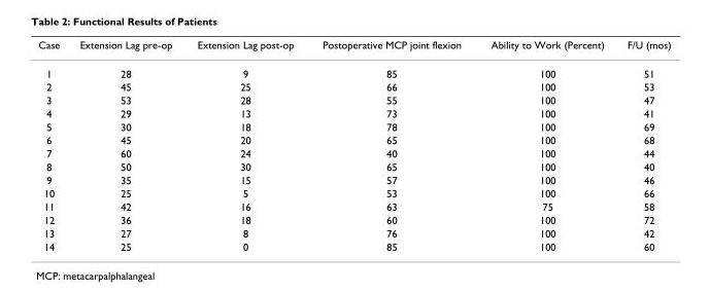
<table><thead><tr><td>Case</td><td>Extension Lag pre-op</td><td>Extension Lag post-op</td><td>Postoperative MCP joint flexion</td><td>Ability to Work (Percent)</td><td>F/U (mos)</td></tr></thead><tbody><tr><td>1</td><td>28</td><td>9</td><td>85</td><td>100</td><td>51</td></tr><tr><td>2</td><td>45</td><td>25</td><td>66</td><td>100</td><td>53</td></tr><tr><td>3</td><td>53</td><td>28</td><td>55</td><td>100</td><td>47</td></tr><tr><td>4</td><td>29</td><td>13</td><td>73</td><td>100</td><td>41</td></tr><tr><td>5</td><td>30</td><td>18</td><td>78</td><td>100</td><td>69</td></tr><tr><td>6</td><td>45</td><td>20</td><td>65</td><td>100</td><td>68</td></tr><tr><td>7</td><td>60</td><td>24</td><td>40</td><td>100</td><td>44</td></tr><tr><td>8</td><td>50</td><td>30</td><td>65</td><td>100</td><td>40</td></tr><tr><td>9</td><td>35</td><td>15</td><td>57</td><td>100</td><td>46</td></tr><tr><td>10</td><td>25</td><td>5</td><td>53</td><td>100</td><td>66</td></tr><tr><td>11</td><td>42</td><td>16</td><td>63</td><td>75</td><td>58</td></tr><tr><td>12</td><td>36</td><td>18</td><td>60</td><td>100</td><td>72</td></tr><tr><td>13</td><td>27</td><td>8</td><td>76</td><td>100</td><td>42</td></tr><tr><td>14</td><td>25</td><td>0</td><td>85</td><td>100</td><td>60</td></tr></tbody></table>